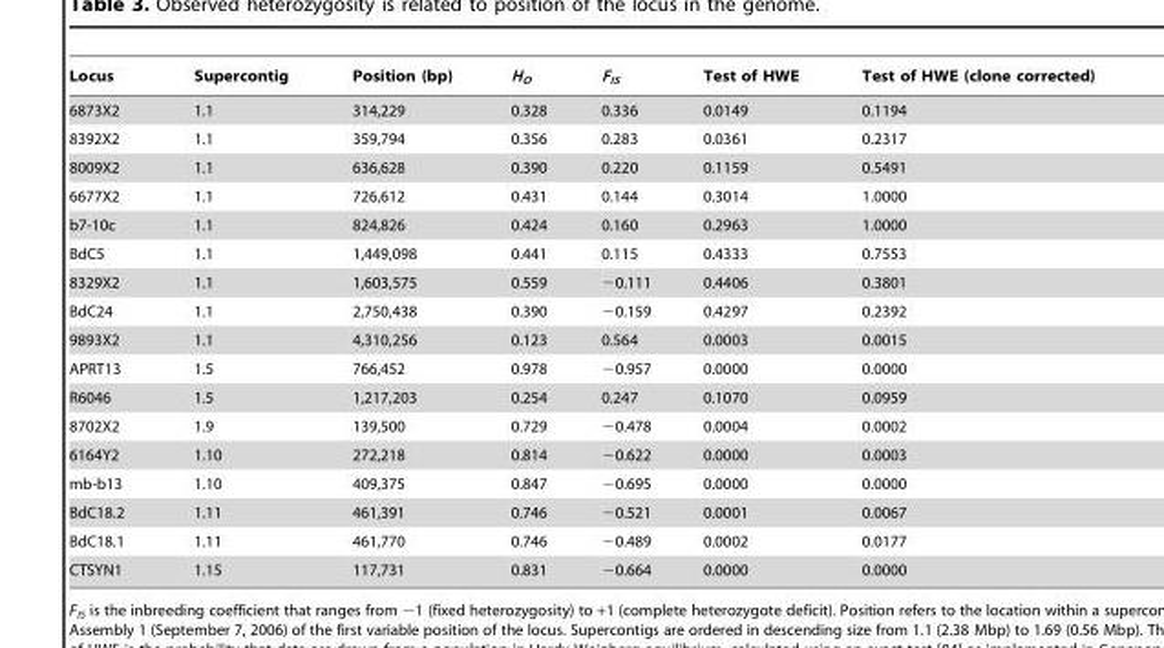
<table><thead><tr><td>Locus</td><td>Supercontig</td><td>Position (bp)</td><td>H<sub>O</sub></td><td>F<sub>IS</sub></td><td>Test of HWE</td><td>Test of HWE (clone corrected)</td></tr></thead><tbody><tr><td>6873X2</td><td>1.1</td><td>314,229</td><td>0.328</td><td>0.336</td><td>0.0149</td><td>0.1194</td></tr><tr><td>8392X2</td><td>1.1</td><td>359,794</td><td>0.356</td><td>0.283</td><td>0.0361</td><td>0.2317</td></tr><tr><td>8009X2</td><td>1.1</td><td>636,628</td><td>0.390</td><td>0.220</td><td>0.1159</td><td>0.5491</td></tr><tr><td>6677X2</td><td>1.1</td><td>726,612</td><td>0.431</td><td>0.144</td><td>0.3014</td><td>1.0000</td></tr><tr><td>b7-10c</td><td>1.1</td><td>824,826</td><td>0.424</td><td>0.160</td><td>0.2963</td><td>1.0000</td></tr><tr><td>BdC5</td><td>1.1</td><td>1,449,098</td><td>0.441</td><td>0.115</td><td>0.4333</td><td>0.7553</td></tr><tr><td>8329X2</td><td>1.1</td><td>1,603,575</td><td>0.559</td><td>−0.111</td><td>0.4406</td><td>0.3801</td></tr><tr><td>BdC24</td><td>1.1</td><td>2,750,438</td><td>0.390</td><td>−0.159</td><td>0.4297</td><td>0.2392</td></tr><tr><td>9893X2</td><td>1.1</td><td>4,310,256</td><td>0.123</td><td>0.564</td><td>0.0003</td><td>0.0015</td></tr><tr><td>APRT13</td><td>1.5</td><td>766,452</td><td>0.978</td><td>−0.957</td><td>0.0000</td><td>0.0000</td></tr><tr><td>R6046</td><td>1.5</td><td>1,217,203</td><td>0.254</td><td>0.247</td><td>0.1070</td><td>0.0959</td></tr><tr><td>8702X2</td><td>1.9</td><td>139,500</td><td>0.729</td><td>−0.478</td><td>0.0004</td><td>0.0002</td></tr><tr><td>6164Y2</td><td>1.10</td><td>272,218</td><td>0.814</td><td>−0.622</td><td>0.0000</td><td>0.0003</td></tr><tr><td>mb-b13</td><td>1.10</td><td>409,375</td><td>0.847</td><td>−0.695</td><td>0.0000</td><td>0.0000</td></tr><tr><td>BdC18.2</td><td>1.11</td><td>461,391</td><td>0.746</td><td>−0.521</td><td>0.0001</td><td>0.0067</td></tr><tr><td>BdC18.1</td><td>1.11</td><td>461,770</td><td>0.746</td><td>−0.489</td><td>0.0002</td><td>0.0177</td></tr><tr><td>CTSYN1</td><td>1.15</td><td>117,731</td><td>0.831</td><td>−0.664</td><td>0.0000</td><td>0.0000</td></tr></tbody></table>